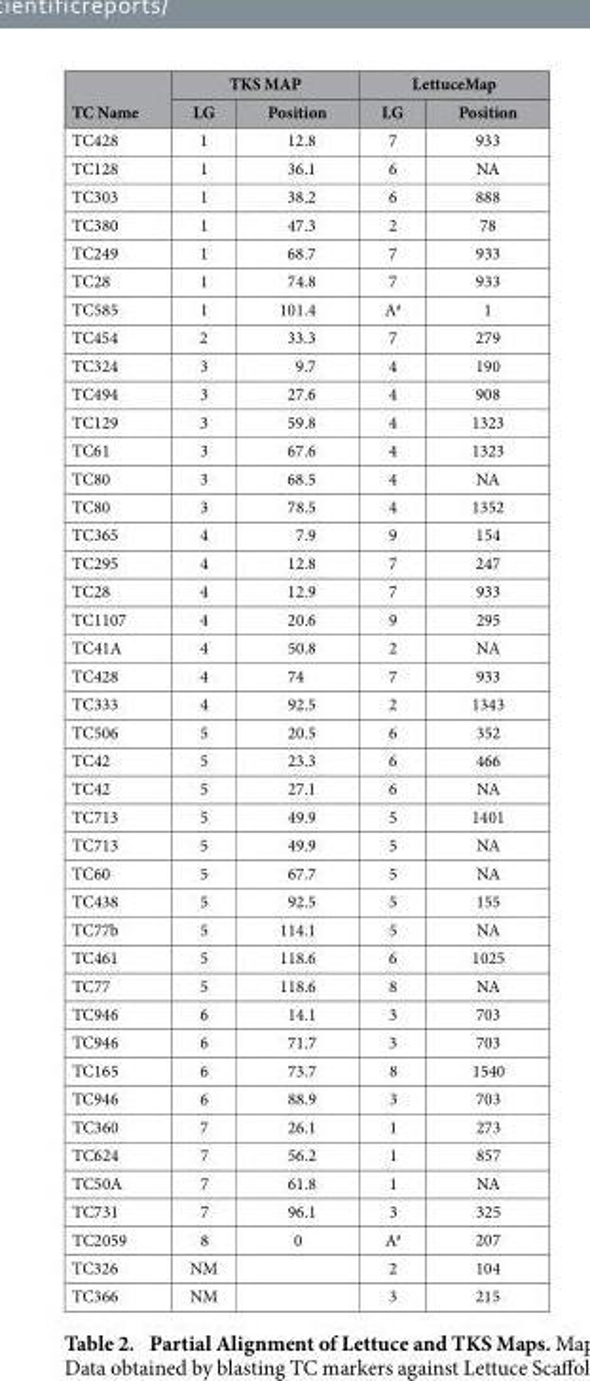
<table><thead><tr><td rowspan="2">TC Name</td><td colspan="2">TKS MAP</td><td colspan="2">LettuceMap</td></tr><tr><td>LG</td><td>Position</td><td>LG</td><td>Position</td></tr></thead><tbody><tr><td>TC428</td><td>1</td><td>12.8</td><td>7</td><td>933</td></tr><tr><td>TC128</td><td>1</td><td>36.1</td><td>6</td><td>NA</td></tr><tr><td>TC303</td><td>1</td><td>38.2</td><td>6</td><td>888</td></tr><tr><td>TC380</td><td>1</td><td>47.3</td><td>2</td><td>78</td></tr><tr><td>TC249</td><td>1</td><td>68.7</td><td>7</td><td>933</td></tr><tr><td>TC28</td><td>1</td><td>74.8</td><td>7</td><td>933</td></tr><tr><td>TC585</td><td>1</td><td>101.4</td><td>A<sup>a</sup></td><td>1</td></tr><tr><td>TC454</td><td>2</td><td>33.3</td><td>7</td><td>279</td></tr><tr><td>TC324</td><td>3</td><td>9.7</td><td>4</td><td>190</td></tr><tr><td>TC494</td><td>3</td><td>27.6</td><td>4</td><td>908</td></tr><tr><td>TC129</td><td>3</td><td>59.8</td><td>4</td><td>1323</td></tr><tr><td>TC61</td><td>3</td><td>67.6</td><td>4</td><td>1323</td></tr><tr><td>TC80</td><td>3</td><td>68.5</td><td>4</td><td>NA</td></tr><tr><td>TC80</td><td>3</td><td>78.5</td><td>4</td><td>1352</td></tr><tr><td>TC365</td><td>4</td><td>7.9</td><td>9</td><td>154</td></tr><tr><td>TC295</td><td>4</td><td>12.8</td><td>7</td><td>247</td></tr><tr><td>TC28</td><td>4</td><td>12.9</td><td>7</td><td>933</td></tr><tr><td>TC1107</td><td>4</td><td>20.6</td><td>9</td><td>295</td></tr><tr><td>TC41A</td><td>4</td><td>50.8</td><td>2</td><td>NA</td></tr><tr><td>TC428</td><td>4</td><td>74</td><td>7</td><td>933</td></tr><tr><td>TC333</td><td>4</td><td>92.5</td><td>2</td><td>1343</td></tr><tr><td>TC506</td><td>5</td><td>20.5</td><td>6</td><td>352</td></tr><tr><td>TC42</td><td>5</td><td>23.3</td><td>6</td><td>466</td></tr><tr><td>TC42</td><td>5</td><td>27.1</td><td>6</td><td>NA</td></tr><tr><td>TC713</td><td>5</td><td>49.9</td><td>5</td><td>1401</td></tr><tr><td>TC713</td><td>5</td><td>49.9</td><td>5</td><td>NA</td></tr><tr><td>TC60</td><td>5</td><td>67.7</td><td>5</td><td>NA</td></tr><tr><td>TC438</td><td>5</td><td>92.5</td><td>5</td><td>155</td></tr><tr><td>TC77b</td><td>5</td><td>114.1</td><td>5</td><td>NA</td></tr><tr><td>TC461</td><td>5</td><td>118.6</td><td>6</td><td>1025</td></tr><tr><td>TC77</td><td>5</td><td>118.6</td><td>8</td><td>NA</td></tr><tr><td>TC946</td><td>6</td><td>14.1</td><td>3</td><td>703</td></tr><tr><td>TC946</td><td>6</td><td>71.7</td><td>3</td><td>703</td></tr><tr><td>TC165</td><td>6</td><td>73.7</td><td>8</td><td>1540</td></tr><tr><td>TC946</td><td>6</td><td>88.9</td><td>3</td><td>703</td></tr><tr><td>TC360</td><td>7</td><td>26.1</td><td>1</td><td>273</td></tr><tr><td>TC624</td><td>7</td><td>56.2</td><td>1</td><td>857</td></tr><tr><td>TC50A</td><td>7</td><td>61.8</td><td>1</td><td>NA</td></tr><tr><td>TC731</td><td>7</td><td>96.1</td><td>3</td><td>325</td></tr><tr><td>TC2059</td><td>8</td><td>0</td><td>A<sup>a</sup></td><td>207</td></tr><tr><td>TC326</td><td>NM</td><td></td><td>2</td><td>104</td></tr><tr><td>TC366</td><td>NM</td><td></td><td>3</td><td>215</td></tr></tbody></table>